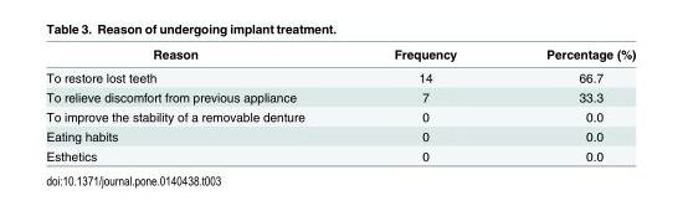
<table><thead><tr><td>Reason</td><td>Frequency</td><td>Percentage (%)</td></tr></thead><tbody><tr><td>To restore lost teeth</td><td>14</td><td>66.7</td></tr><tr><td>To relieve discomfort from previous appliance</td><td>7</td><td>33.3</td></tr><tr><td>To improve the stability of a removable denture</td><td>0</td><td>0.0</td></tr><tr><td>Eating habits</td><td>0</td><td>0.0</td></tr><tr><td>Esthetics</td><td>0</td><td>0.0</td></tr></tbody></table>